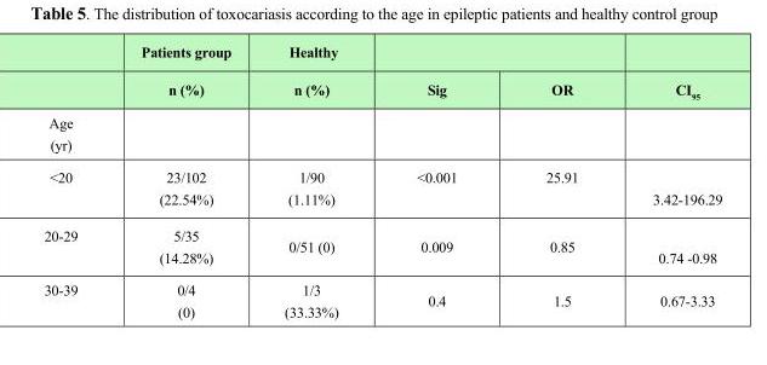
<table><thead><tr><td rowspan="2"></td><td rowspan="2">Patients group n (%)</td><td rowspan="2">Healthy n (%)</td><td rowspan="2">Sig</td><td rowspan="2">OR</td><td rowspan="2">CI<sub>95</sub></td></tr><tr></tr></thead><tbody><tr><td colspan="6">Age (yr)</td></tr><tr><td>&lt;20</td><td>23/102 (22.54%)</td><td>1/90 (1.11%)</td><td>&lt;0.001</td><td>25.91</td><td>3.42-196.29</td></tr><tr><td>20-29</td><td>5/35 (14.28%)</td><td>0/51 (0)</td><td>0.009</td><td>0.85</td><td>0.74 -0.98</td></tr><tr><td>30-39</td><td>0/4 (0)</td><td>1/3 (33.33%)</td><td>0.4</td><td>1.5</td><td>0.67-3.33</td></tr></tbody></table>